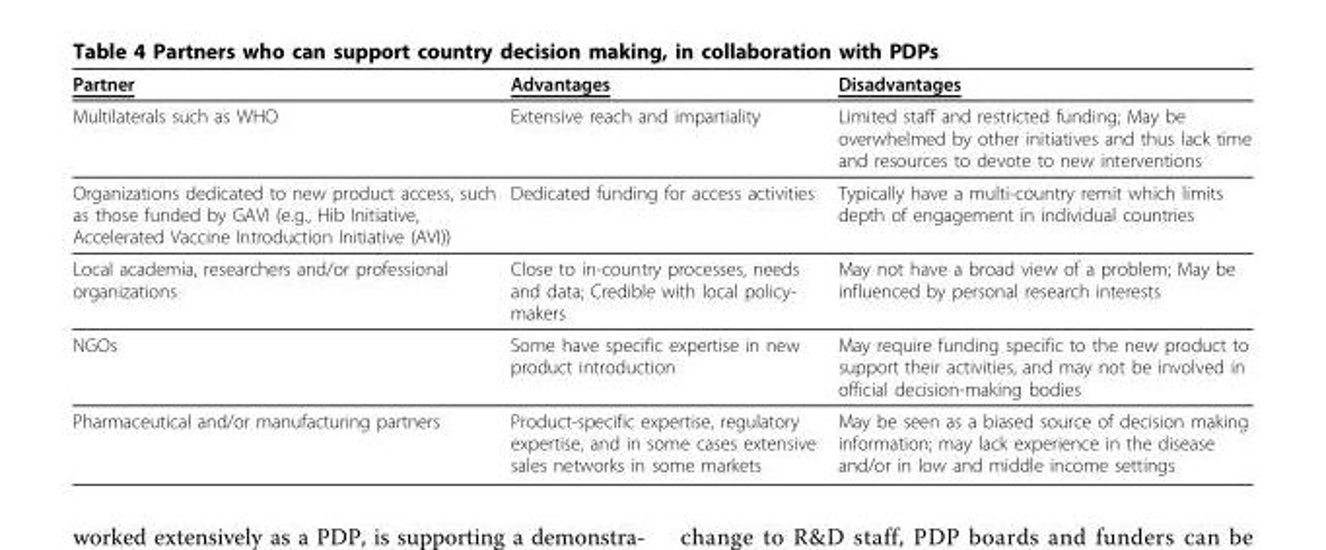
<table><thead><tr><td>Partner</td><td>Advantages</td><td>Disadvantages</td></tr></thead><tbody><tr><td>Multilaterals such as WHO</td><td>Extensive reach and impartiality</td><td>Limited staff and restricted funding; May be overwhelmed by other initiatives and thus lack time and resources to devote to new interventions</td></tr><tr><td>Organizations dedicated to new product access, such as those funded by GAVI (e.g., Hib Initiative, Accelerated Vaccine Introduction Initiative (AVI))</td><td>Dedicated funding for access activities</td><td>Typically have a multi-country remit which limits depth of engagement in individual countries</td></tr><tr><td>Local academia, researchers and/or professional organizations</td><td>Close to in-country processes, needs and data; Credible with local policy- makers</td><td>May not have a broad view of a problem; May be influenced by personal research interests</td></tr><tr><td>NGOs</td><td>Some have specific expertise in new product introduction</td><td>May require funding specific to the new product to support their activities, and may not be involved in official decision-making bodies</td></tr><tr><td>Pharmaceutical and/or manufacturing partners</td><td>Product-specific expertise, regulatory expertise, and in some cases extensive sales networks in some markets</td><td>May be seen as a biased source of decision making information; may lack experience in the disease and/or in low and middle income settings</td></tr></tbody></table>